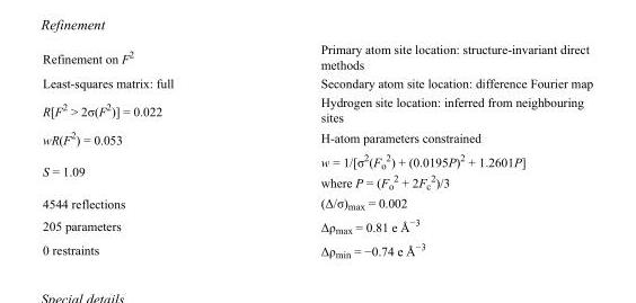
<table><tbody><tr><td>Refinement on F<sup>2</sup></td><td>Primary atom site location: structure-invariant direct methods</td></tr><tr><td>Least-squares matrix: full</td><td>Secondary atom site location: difference Fourier map</td></tr><tr><td>R[F<sup>2</sup> &gt; 2σ(F<sup>2</sup>)] = 0.022</td><td>Hydrogen site location: inferred from neighbouring sites</td></tr><tr><td>wR(F<sup>2</sup>) = 0.053</td><td>H-atom parameters constrained</td></tr><tr><td>S = 1.09</td><td>w = 1/[σ<sup>2</sup>(F<sub>o</sub> <sup>2</sup>) + (0.0195P)<sup>2</sup> + 1.2601P] where P = (F<sub>o</sub> <sup>2</sup> + 2F<sub>c</sub> <sup>2</sup>)/3</td></tr><tr><td>4544 reflections</td><td>(Δ/σ)<sub>max</sub> = 0.002</td></tr><tr><td>205 parameters</td><td>Δρ<sub>max</sub> = 0.81 e Å<sup>−3</sup></td></tr><tr><td>0 restraints</td><td>Δρ<sub>min</sub> = −0.74 e Å<sup>−3</sup></td></tr></tbody></table>